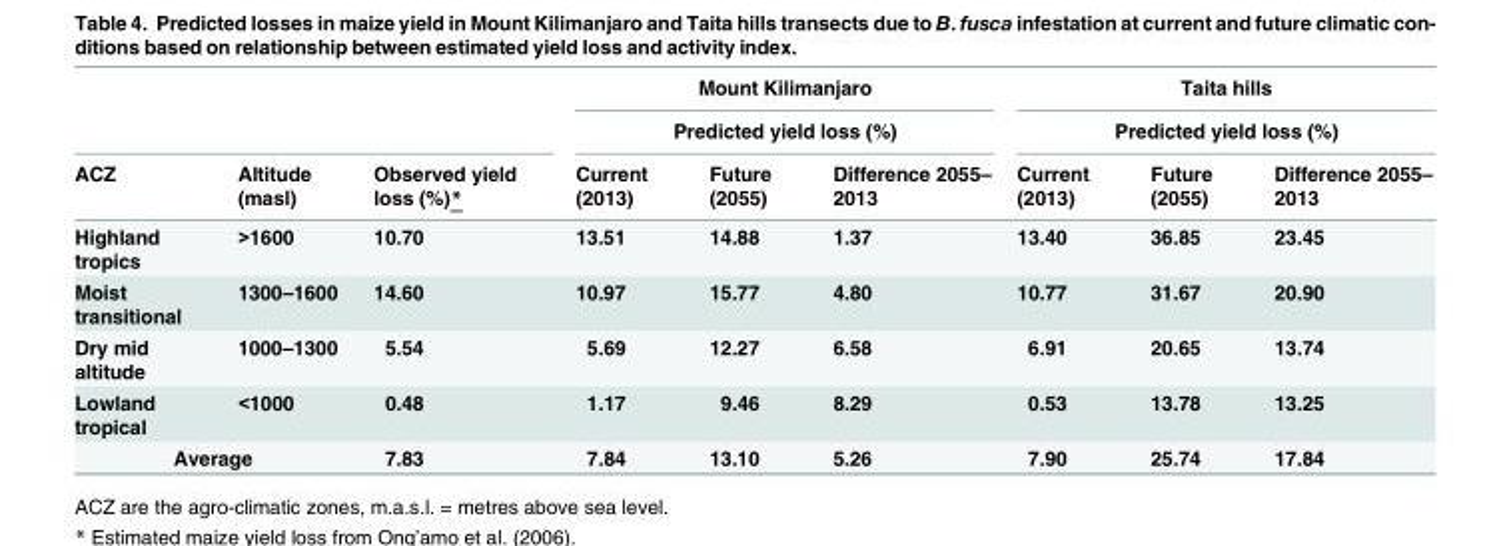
<table><thead><tr><td rowspan="3">ACZ</td><td rowspan="3">Altitude (masl)</td><td rowspan="3">Observed yield loss (%)*</td><td rowspan="2" colspan="3">Mount Kilimanjaro Predicted yield loss (%)</td><td rowspan="2" colspan="3">Taita hills Predicted yield loss (%)</td></tr><tr></tr><tr><td>Current (2013)</td><td>Future (2055)</td><td>Difference 2055– 2013</td><td>Current (2013)</td><td>Future (2055)</td><td>Difference 2055– 2013</td></tr></thead><tbody><tr><td>Highland tropics</td><td>&gt;1600</td><td>10.70</td><td>13.51</td><td>14.88</td><td>1.37</td><td>13.40</td><td>36.85</td><td>23.45</td></tr><tr><td>Moist transitional</td><td>1300–1600</td><td>14.60</td><td>10.97</td><td>15.77</td><td>4.80</td><td>10.77</td><td>31.67</td><td>20.90</td></tr><tr><td>Dry mid altitude</td><td>1000–1300</td><td>5.54</td><td>5.69</td><td>12.27</td><td>6.58</td><td>6.91</td><td>20.65</td><td>13.74</td></tr><tr><td>Lowland tropical</td><td>&lt;1000</td><td>0.48</td><td>1.17</td><td>9.46</td><td>8.29</td><td>0.53</td><td>13.78</td><td>13.25</td></tr><tr><td colspan="2">Average</td><td>7.83</td><td>7.84</td><td>13.10</td><td>5.26</td><td>7.90</td><td>25.74</td><td>17.84</td></tr></tbody></table>